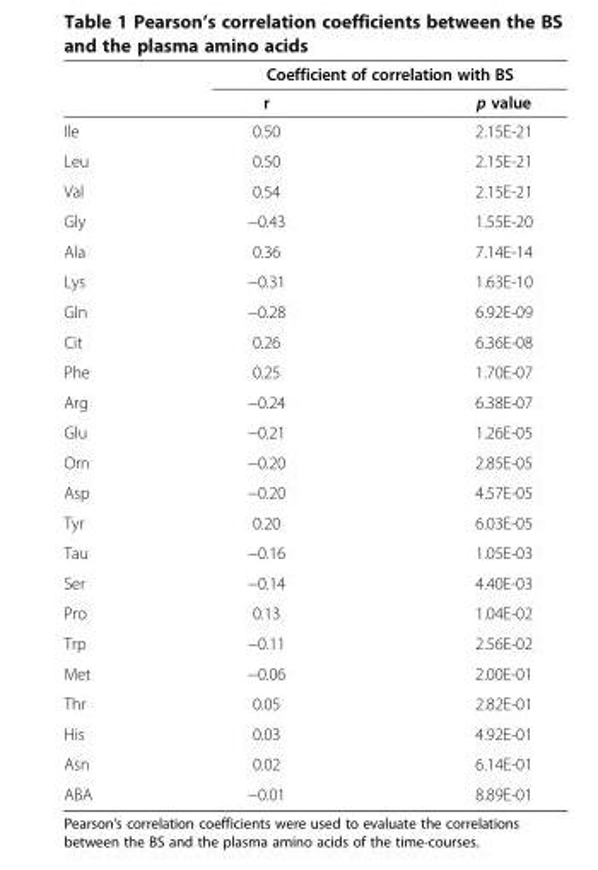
<table><thead><tr><td rowspan="2"></td><td colspan="2">Coefficient of correlation with BS</td></tr><tr><td>r</td><td>p value</td></tr></thead><tbody><tr><td>Ile</td><td>0.50</td><td>2.15E-21</td></tr><tr><td>Leu</td><td>0.50</td><td>2.15E-21</td></tr><tr><td>Val</td><td>0.54</td><td>2.15E-21</td></tr><tr><td>Gly</td><td>−0.43</td><td>1.55E-20</td></tr><tr><td>Ala</td><td>0.36</td><td>7.14E-14</td></tr><tr><td>Lys</td><td>−0.31</td><td>1.63E-10</td></tr><tr><td>Gln</td><td>−0.28</td><td>6.92E-09</td></tr><tr><td>Cit</td><td>0.26</td><td>6.36E-08</td></tr><tr><td>Phe</td><td>0.25</td><td>1.70E-07</td></tr><tr><td>Arg</td><td>−0.24</td><td>6.38E-07</td></tr><tr><td>Glu</td><td>−0.21</td><td>1.26E-05</td></tr><tr><td>Orn</td><td>−0.20</td><td>2.85E-05</td></tr><tr><td>Asp</td><td>−0.20</td><td>4.57E-05</td></tr><tr><td>Tyr</td><td>0.20</td><td>6.03E-05</td></tr><tr><td>Tau</td><td>−0.16</td><td>1.05E-03</td></tr><tr><td>Ser</td><td>−0.14</td><td>4.40E-03</td></tr><tr><td>Pro</td><td>0.13</td><td>1.04E-02</td></tr><tr><td>Trp</td><td>−0.11</td><td>2.56E-02</td></tr><tr><td>Met</td><td>−0.06</td><td>2.00E-01</td></tr><tr><td>Thr</td><td>0.05</td><td>2.82E-01</td></tr><tr><td>His</td><td>0.03</td><td>4.92E-01</td></tr><tr><td>Asn</td><td>0.02</td><td>6.14E-01</td></tr><tr><td>ABA</td><td>−0.01</td><td>8.89E-01</td></tr></tbody></table>